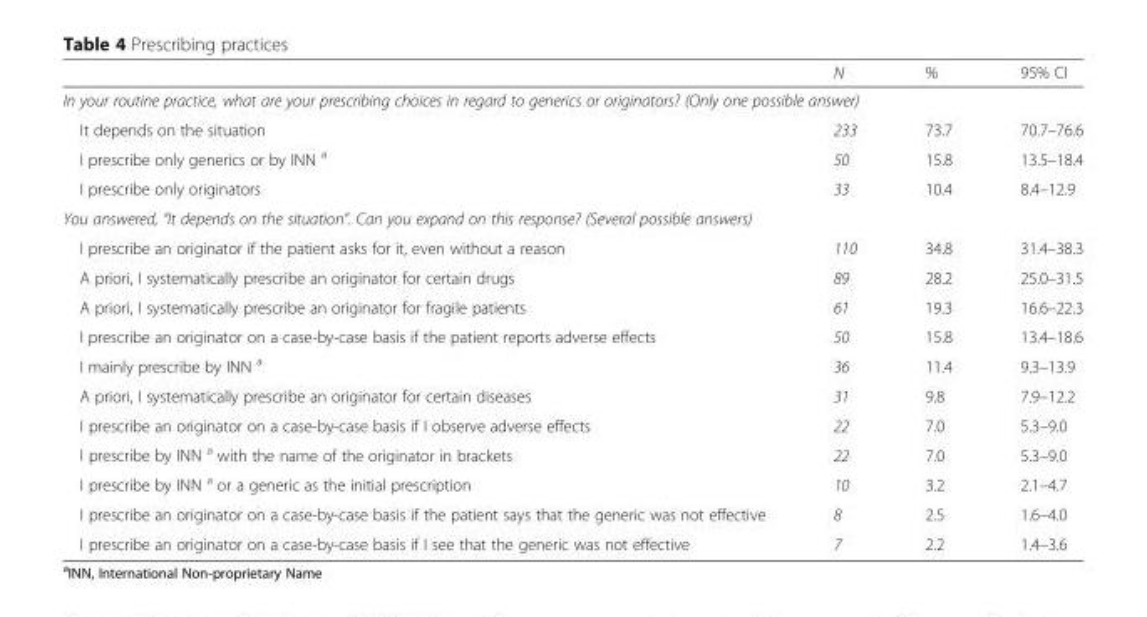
<table><thead><tr><td></td><td>N</td><td>%</td><td>95% CI</td></tr></thead><tbody><tr><td colspan="4">In your routine practice, what are your prescribing choices in regard to generics or originators? (Only one possible answer)</td></tr><tr><td>It depends on the situation</td><td>233</td><td>73.7</td><td>70.7–76.6</td></tr><tr><td>I prescribe only generics or by INN <sup>a</sup></td><td>50</td><td>15.8</td><td>13.5–18.4</td></tr><tr><td>I prescribe only originators</td><td>33</td><td>10.4</td><td>8.4–12.9</td></tr><tr><td colspan="4">You answered, “It depends on the situation”. Can you expand on this response? (Several possible answers)</td></tr><tr><td>I prescribe an originator if the patient asks for it, even without a reason</td><td>110</td><td>34.8</td><td>31.4–38.3</td></tr><tr><td>A priori, I systematically prescribe an originator for certain drugs</td><td>89</td><td>28.2</td><td>25.0–31.5</td></tr><tr><td>A priori, I systematically prescribe an originator for fragile patients</td><td>61</td><td>19.3</td><td>16.6–22.3</td></tr><tr><td>I prescribe an originator on a case-by-case basis if the patient reports adverse effects</td><td>50</td><td>15.8</td><td>13.4–18.6</td></tr><tr><td>I mainly prescribe by INN <sup>a</sup></td><td>36</td><td>11.4</td><td>9.3–13.9</td></tr><tr><td>A priori, I systematically prescribe an originator for certain diseases</td><td>31</td><td>9.8</td><td>7.9–12.2</td></tr><tr><td>I prescribe an originator on a case-by-case basis if I observe adverse effects</td><td>22</td><td>7.0</td><td>5.3–9.0</td></tr><tr><td>I prescribe by INN <sup>a</sup> with the name of the originator in brackets</td><td>22</td><td>7.0</td><td>5.3–9.0</td></tr><tr><td>I prescribe by INN <sup>a</sup> or a generic as the initial prescription</td><td>10</td><td>3.2</td><td>2.1–4.7</td></tr><tr><td>I prescribe an originator on a case-by-case basis if the patient says that the generic was not effective</td><td>8</td><td>2.5</td><td>1.6–4.0</td></tr><tr><td>I prescribe an originator on a case-by-case basis if I see that the generic was not effective</td><td>7</td><td>2.2</td><td>1.4–3.6</td></tr></tbody></table>